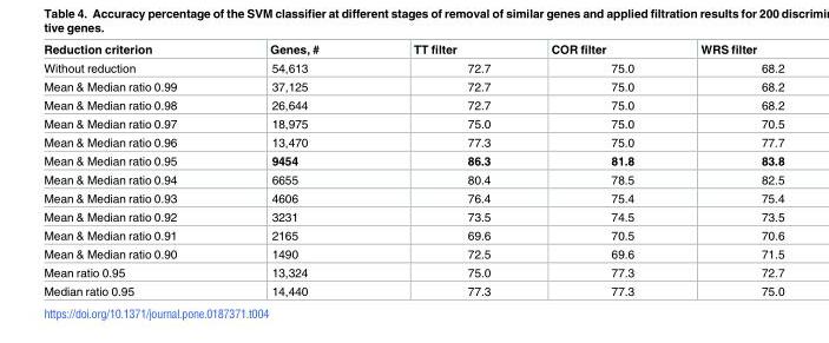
<table><thead><tr><td>Reduction criterion</td><td>Genes, #</td><td>TT filter</td><td>COR filter</td><td>WRS filter</td></tr></thead><tbody><tr><td>Without reduction</td><td>54,613</td><td>72.7</td><td>75.0</td><td>68.2</td></tr><tr><td>Mean &amp; Median ratio 0.99</td><td>37,125</td><td>72.7</td><td>75.0</td><td>68.2</td></tr><tr><td>Mean &amp; Median ratio 0.98</td><td>26,644</td><td>72.7</td><td>75.0</td><td>68.2</td></tr><tr><td>Mean &amp; Median ratio 0.97</td><td>18,975</td><td>75.0</td><td>75.0</td><td>70.5</td></tr><tr><td>Mean &amp; Median ratio 0.96</td><td>13,470</td><td>77.3</td><td>75.0</td><td>77.7</td></tr><tr><td>Mean &amp; Median ratio 0.95</td><td>9454</td><td>86.3</td><td>81.8</td><td>83.8</td></tr><tr><td>Mean &amp; Median ratio 0.94</td><td>6655</td><td>80.4</td><td>78.5</td><td>82.5</td></tr><tr><td>Mean &amp; Median ratio 0.93</td><td>4606</td><td>76.4</td><td>75.4</td><td>75.4</td></tr><tr><td>Mean &amp; Median ratio 0.92</td><td>3231</td><td>73.5</td><td>74.5</td><td>73.5</td></tr><tr><td>Mean &amp; Median ratio 0.91</td><td>2165</td><td>69.6</td><td>70.5</td><td>70.6</td></tr><tr><td>Mean &amp; Median ratio 0.90</td><td>1490</td><td>72.5</td><td>69.6</td><td>71.5</td></tr><tr><td>Mean ratio 0.95</td><td>13,324</td><td>75.0</td><td>77.3</td><td>72.7</td></tr><tr><td>Median ratio 0.95</td><td>14,440</td><td>77.3</td><td>77.3</td><td>75.0</td></tr></tbody></table>